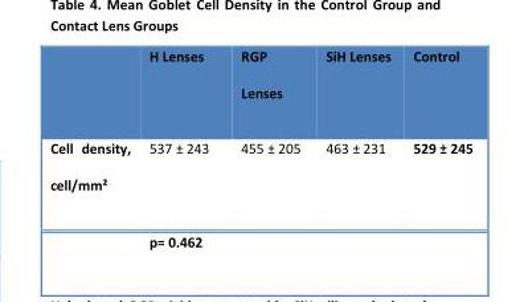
<table><thead><tr><td></td><td>H Lenses</td><td>RGP Lenses</td><td>SiH Lenses</td><td>Control</td></tr></thead><tbody><tr><td rowspan="2">Cell density, cell/mm²</td><td>537 ± 243</td><td>455 ± 205</td><td>463 ± 231</td><td>529 ± 245</td></tr><tr><td colspan="4">p= 0.462</td></tr></tbody></table>